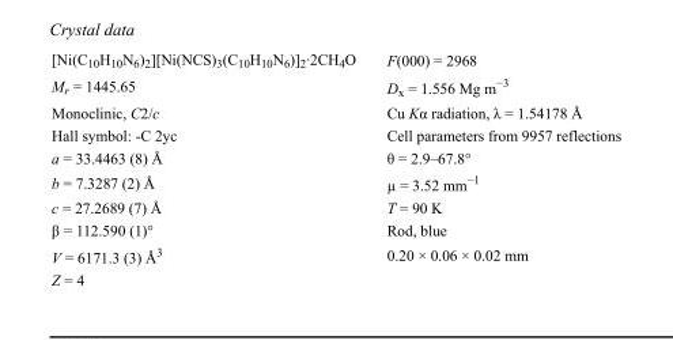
<table><tbody><tr><td>[Ni(C<sub>10</sub>H<sub>10</sub>N<sub>6</sub>)<sub>2</sub>][Ni(NCS)<sub>3</sub>(C<sub>10</sub>H<sub>10</sub>N<sub>6</sub>)]<sub>2</sub>·2CH<sub>4</sub>O</td><td>F(000) = 2968</td></tr><tr><td>M<sub>r</sub> = 1445.65</td><td>D<sub>x</sub> = 1.556 Mg m<sup>−3</sup></td></tr><tr><td>Monoclinic, C2/c</td><td>Cu Kα radiation, λ = 1.54178 Å</td></tr><tr><td>Hall symbol: -C 2yc</td><td>Cell parameters from 9957 reflections</td></tr><tr><td>a = 33.4463 (8) Å</td><td>θ = 2.9–67.8°</td></tr><tr><td>b = 7.3287 (2) Å</td><td>µ = 3.52 mm<sup>−1</sup></td></tr><tr><td>c = 27.2689 (7) Å</td><td>T = 90 K</td></tr><tr><td>β = 112.590 (1)°</td><td>Rod, blue</td></tr><tr><td>V = 6171.3 (3) Å<sup>3</sup></td><td>0.20 × 0.06 × 0.02 mm</td></tr><tr><td>Z = 4</td><td></td></tr></tbody></table>